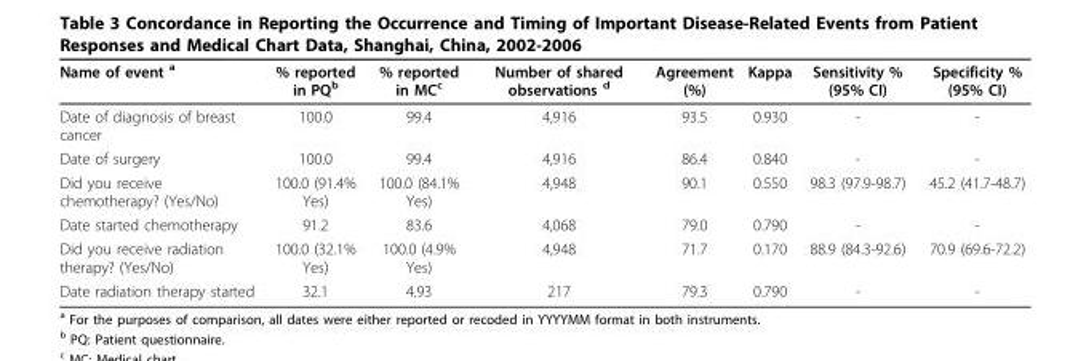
<table><thead><tr><td>Name of event <sup>a</sup></td><td>% reported in PQ<sup>b</sup></td><td>% reported in MC<sup>c</sup></td><td>Number of shared observations <sup>d</sup></td><td>Agreement (%)</td><td>Kappa</td><td>Sensitivity % (95% CI)</td><td>Specificity % (95% CI)</td></tr></thead><tbody><tr><td>Date of diagnosis of breast cancer</td><td>100.0</td><td>99.4</td><td>4,916</td><td>93.5</td><td>0.930</td><td>-</td><td>-</td></tr><tr><td>Date of surgery</td><td>100.0</td><td>99.4</td><td>4,916</td><td>86.4</td><td>0.840</td><td>-</td><td>-</td></tr><tr><td>Did you receive chemotherapy? (Yes/No)</td><td>100.0 (91.4% Yes)</td><td>100.0 (84.1% Yes)</td><td>4,948</td><td>90.1</td><td>0.550</td><td>98.3 (97.9-98.7)</td><td>45.2 (41.7-48.7)</td></tr><tr><td>Date started chemotherapy</td><td>91.2</td><td>83.6</td><td>4,068</td><td>79.0</td><td>0.790</td><td>-</td><td>-</td></tr><tr><td>Did you receive radiation therapy? (Yes/No)</td><td>100.0 (32.1% Yes)</td><td>100.0 (4.9% Yes)</td><td>4,948</td><td>71.7</td><td>0.170</td><td>88.9 (84.3-92.6)</td><td>70.9 (69.6-72.2)</td></tr><tr><td>Date radiation therapy started</td><td>32.1</td><td>4.93</td><td>217</td><td>79.3</td><td>0.790</td><td>-</td><td>-</td></tr></tbody></table>